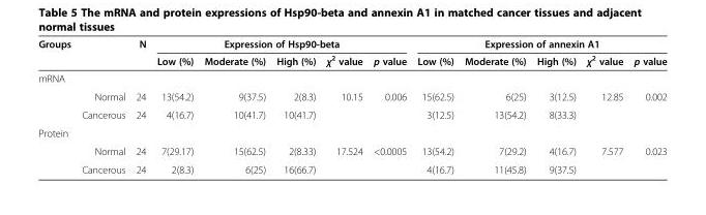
<table><thead><tr><td rowspan="2">Groups</td><td rowspan="2"></td><td rowspan="2">N</td><td colspan="5">Expression of Hsp90-beta</td><td colspan="5">Expression of annexin A1</td></tr><tr><td>Low (%)</td><td>Moderate (%)</td><td>High (%)</td><td>χ<sup>2</sup> value</td><td>p value</td><td>Low (%)</td><td>Moderate (%)</td><td>High (%)</td><td>χ<sup>2</sup> value</td><td>p value</td></tr></thead><tbody><tr><td colspan="13">mRNA</td></tr><tr><td></td><td>Normal</td><td>24</td><td>13(54.2)</td><td>9(37.5)</td><td>2(8.3)</td><td rowspan="2">10.15</td><td rowspan="2">0.006</td><td>15(62.5)</td><td>6(25)</td><td>3(12.5)</td><td rowspan="2">12.85</td><td rowspan="2">0.002</td></tr><tr><td></td><td>Cancerous</td><td>24</td><td>4(16.7)</td><td>10(41.7)</td><td>10(41.7)</td><td>3(12.5)</td><td>13(54.2)</td><td>8(33.3)</td></tr><tr><td colspan="13">Protein</td></tr><tr><td></td><td>Normal</td><td>24</td><td>7(29.17)</td><td>15(62.5)</td><td>2(8.33)</td><td>17.524</td><td>&lt;0.0005</td><td>13(54.2)</td><td>7(29.2)</td><td>4(16.7)</td><td>7.577</td><td>0.023</td></tr><tr><td></td><td>Cancerous</td><td>24</td><td>2(8.3)</td><td>6(25)</td><td>16(66.7)</td><td></td><td></td><td>4(16.7)</td><td>11(45.8)</td><td>9(37.5)</td><td></td><td></td></tr></tbody></table>